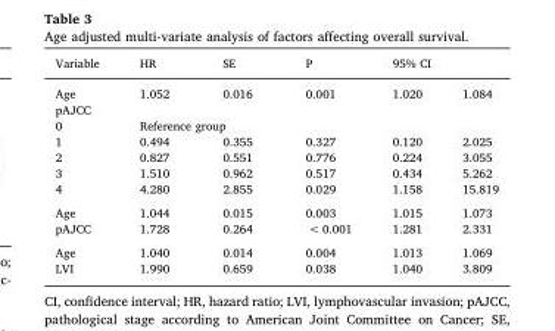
<table><thead><tr><td rowspan="2">Variable Age</td><td rowspan="2">HR 1.052</td><td rowspan="2">SE 0.016</td><td rowspan="2">P 0.001</td><td colspan="2">95% CI</td></tr><tr><td>1.020</td><td>1.084</td></tr></thead><tbody><tr><td colspan="6">pAJCC</td></tr><tr><td>0</td><td colspan="2">Reference group</td><td></td><td></td><td></td></tr><tr><td>1</td><td>0.494</td><td>0.355</td><td>0.327</td><td>0.120</td><td>2.025</td></tr><tr><td>2</td><td>0.827</td><td>0.551</td><td>0.776</td><td>0.224</td><td>3.055</td></tr><tr><td>3</td><td>1.510</td><td>0.962</td><td>0.517</td><td>0.434</td><td>5.262</td></tr><tr><td>4</td><td>4.280</td><td>2.855</td><td>0.029</td><td>1.158</td><td>15.819</td></tr><tr><td>Age</td><td>1.044</td><td>0.015</td><td>0.003</td><td>1.015</td><td>1.073</td></tr><tr><td>pAJCC</td><td>1.728</td><td>0.264</td><td>&lt; 0.001</td><td>1.281</td><td>2.331</td></tr><tr><td>Age</td><td>1.040</td><td>0.014</td><td>0.004</td><td>1.013</td><td>1.069</td></tr><tr><td>LVI</td><td>1.990</td><td>0.659</td><td>0.038</td><td>1.040</td><td>3.809</td></tr></tbody></table>